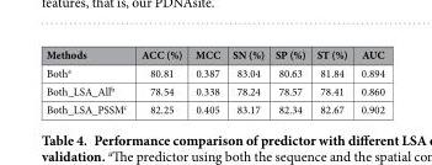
<table><thead><tr><td>Methods</td><td>ACC (%)</td><td>MCC</td><td>SN (%)</td><td>SP (%)</td><td>ST (%)</td><td>AUC</td></tr></thead><tbody><tr><td>Both<sup>a</sup></td><td>80.81</td><td>0.387</td><td>83.04</td><td>80.63</td><td>81.84</td><td>0.894</td></tr><tr><td>Both_LSA_All<sup>b</sup></td><td>78.54</td><td>0.338</td><td>78.24</td><td>78.57</td><td>78.41</td><td>0.860</td></tr><tr><td>Both_LSA_PSSM<sup>c</sup></td><td>82.25</td><td>0.405</td><td>83.17</td><td>82.34</td><td>82.67</td><td>0.902</td></tr></tbody></table>